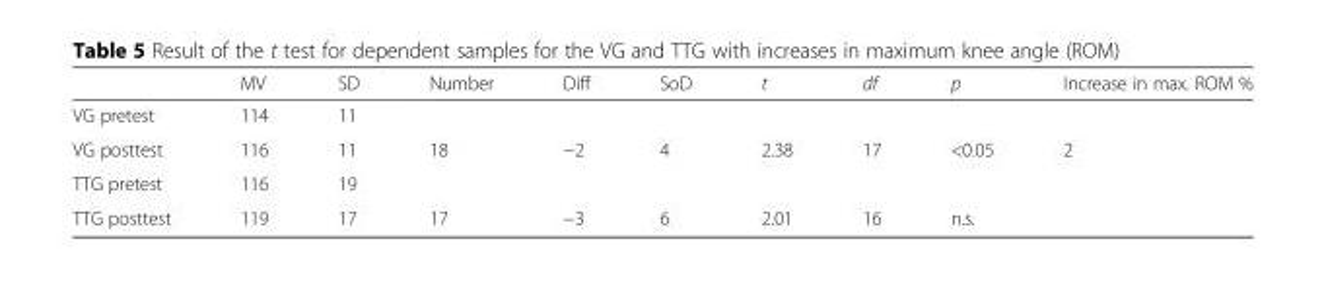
<table><thead><tr><td></td><td>MV</td><td>SD</td><td>Number</td><td>Diff</td><td>SoD</td><td>t</td><td>df</td><td>p</td><td>Increase in max. ROM %</td></tr></thead><tbody><tr><td>VG pretest</td><td>114</td><td>11</td><td colspan="6"></td><td rowspan="2">2</td></tr><tr><td>VG posttest</td><td>116</td><td>11</td><td>18</td><td>−2</td><td>4</td><td>2.38</td><td>17</td><td>&lt;0.05</td></tr><tr><td>TTG pretest</td><td>116</td><td>19</td><td colspan="6"></td><td rowspan="2"></td></tr><tr><td>TTG posttest</td><td>119</td><td>17</td><td>17</td><td>−3</td><td>6</td><td>2.01</td><td>16</td><td>n.s.</td></tr></tbody></table>